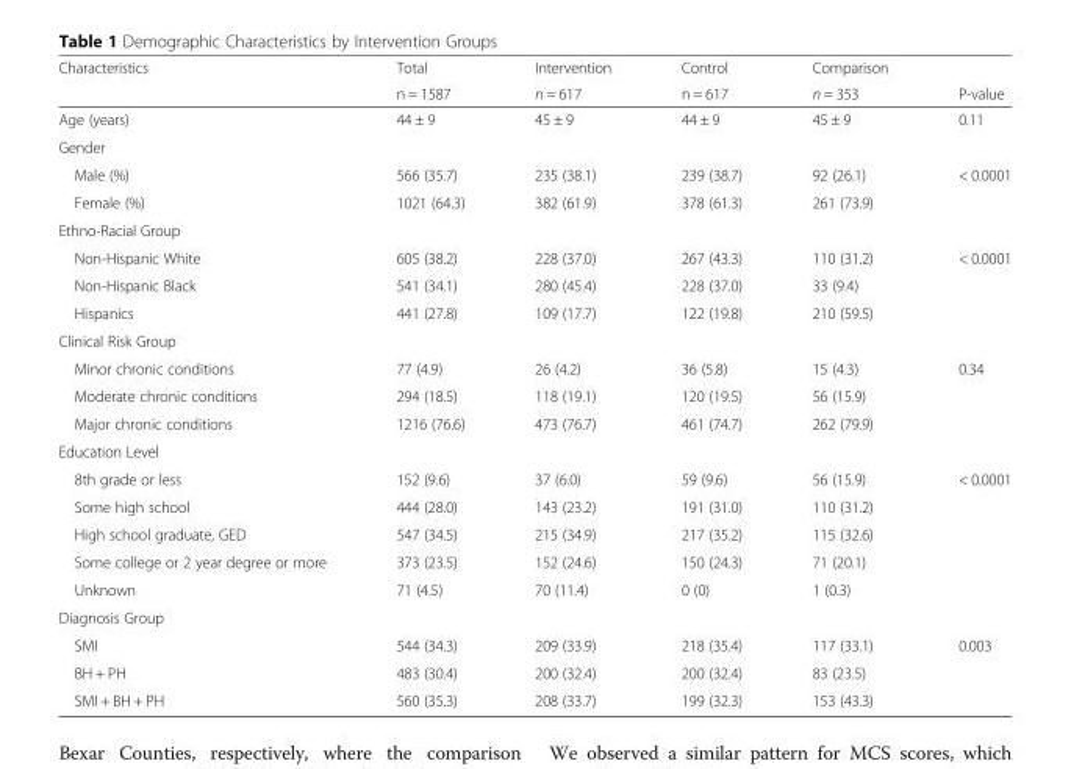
<table><thead><tr><td rowspan="2">Characteristics</td><td rowspan="2">Total n = 1587</td><td rowspan="2">Intervention n = 617</td><td rowspan="2">Control n = 617</td><td rowspan="2">Comparison n = 353</td><td rowspan="2">P-value</td></tr><tr></tr></thead><tbody><tr><td>Age (years)</td><td>44 ± 9</td><td>45 ± 9</td><td>44 ± 9</td><td>45 ± 9</td><td>0.11</td></tr><tr><td colspan="6">Gender</td></tr><tr><td>Male (%)</td><td>566 (35.7)</td><td>235 (38.1)</td><td>239 (38.7)</td><td>92 (26.1)</td><td rowspan="2">&lt; 0.0001</td></tr><tr><td>Female (%)</td><td>1021 (64.3)</td><td>382 (61.9)</td><td>378 (61.3)</td><td>261 (73.9)</td></tr><tr><td colspan="6">Ethno-Racial Group</td></tr><tr><td>Non-Hispanic White</td><td>605 (38.2)</td><td>228 (37.0)</td><td>267 (43.3)</td><td>110 (31.2)</td><td rowspan="3">&lt; 0.0001</td></tr><tr><td>Non-Hispanic Black</td><td>541 (34.1)</td><td>280 (45.4)</td><td>228 (37.0)</td><td>33 (9.4)</td></tr><tr><td>Hispanics</td><td>441 (27.8)</td><td>109 (17.7)</td><td>122 (19.8)</td><td>210 (59.5)</td></tr><tr><td colspan="6">Clinical Risk Group</td></tr><tr><td>Minor chronic conditions</td><td>77 (4.9)</td><td>26 (4.2)</td><td>36 (5.8)</td><td>15 (4.3)</td><td rowspan="3">0.34</td></tr><tr><td>Moderate chronic conditions</td><td>294 (18.5)</td><td>118 (19.1)</td><td>120 (19.5)</td><td>56 (15.9)</td></tr><tr><td>Major chronic conditions</td><td>1216 (76.6)</td><td>473 (76.7)</td><td>461 (74.7)</td><td>262 (79.9)</td></tr><tr><td colspan="6">Education Level</td></tr><tr><td>8th grade or less</td><td>152 (9.6)</td><td>37 (6.0)</td><td>59 (9.6)</td><td>56 (15.9)</td><td rowspan="5">&lt; 0.0001</td></tr><tr><td>Some high school</td><td>444 (28.0)</td><td>143 (23.2)</td><td>191 (31.0)</td><td>110 (31.2)</td></tr><tr><td>High school graduate, GED</td><td>547 (34.5)</td><td>215 (34.9)</td><td>217 (35.2)</td><td>115 (32.6)</td></tr><tr><td>Some college or 2 year degree or more</td><td>373 (23.5)</td><td>152 (24.6)</td><td>150 (24.3)</td><td>71 (20.1)</td></tr><tr><td>Unknown</td><td>71 (4.5)</td><td>70 (11.4)</td><td>0 (0)</td><td>1 (0.3)</td></tr><tr><td colspan="6">Diagnosis Group</td></tr><tr><td>SMI</td><td>544 (34.3)</td><td>209 (33.9)</td><td>218 (35.4)</td><td>117 (33.1)</td><td rowspan="3">0.003</td></tr><tr><td>BH + PH</td><td>483 (30.4)</td><td>200 (32.4)</td><td>200 (32.4)</td><td>83 (23.5)</td></tr><tr><td>SMI + BH + PH</td><td>560 (35.3)</td><td>208 (33.7)</td><td>199 (32.3)</td><td>153 (43.3)</td></tr></tbody></table>